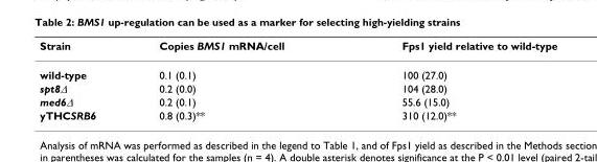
<table><thead><tr><td>Strain</td><td>Copies BMS1 mRNA/cell</td><td>Fps1 yield relative to wild-type</td></tr></thead><tbody><tr><td>wild-type</td><td>0.1 (0.1)</td><td>100 (27.0)</td></tr><tr><td>spt8Δ</td><td>0.2 (0.0)</td><td>104 (28.0)</td></tr><tr><td>med6Δ</td><td>0.2 (0.1)</td><td>55.6 (15.0)</td></tr><tr><td>yTHCSRB6</td><td>0.8 (0.3)**</td><td>310 (12.0)**</td></tr></tbody></table>